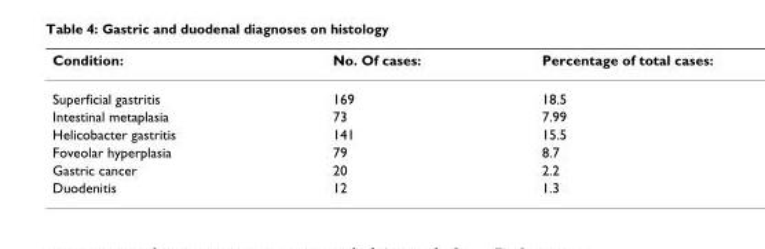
<table><thead><tr><td>Condition:</td><td>No. Of cases:</td><td>Percentage of total cases:</td></tr></thead><tbody><tr><td>Superficial gastritis</td><td>169</td><td>18.5</td></tr><tr><td>Intestinal metaplasia</td><td>73</td><td>7.99</td></tr><tr><td>Helicobacter gastritis</td><td>141</td><td>15.5</td></tr><tr><td>Foveolar hyperplasia</td><td>79</td><td>8.7</td></tr><tr><td>Gastric cancer</td><td>20</td><td>2.2</td></tr><tr><td>Duodenitis</td><td>12</td><td>1.3</td></tr></tbody></table>